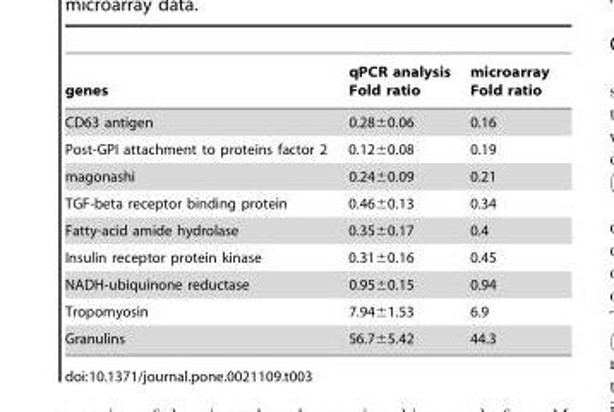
<table><thead><tr><td>genes</td><td>qPCR analysis Fold ratio</td><td>microarray Fold ratio</td></tr></thead><tbody><tr><td>CD63 antigen</td><td>0.28±0.06</td><td>0.16</td></tr><tr><td>Post-GPI attachment to proteins factor 2</td><td>0.12±0.08</td><td>0.19</td></tr><tr><td>magonashi</td><td>0.24±0.09</td><td>0.21</td></tr><tr><td>TGF-beta receptor binding protein</td><td>0.46±0.13</td><td>0.34</td></tr><tr><td>Fatty-acid amide hydrolase</td><td>0.35±0.17</td><td>0.4</td></tr><tr><td>Insulin receptor protein kinase</td><td>0.31±0.16</td><td>0.45</td></tr><tr><td>NADH-ubiquinone reductase</td><td>0.95±0.15</td><td>0.94</td></tr><tr><td>Tropomyosin</td><td>7.94±1.53</td><td>6.9</td></tr><tr><td>Granulins</td><td>56.7±5.42</td><td>44.3</td></tr></tbody></table>